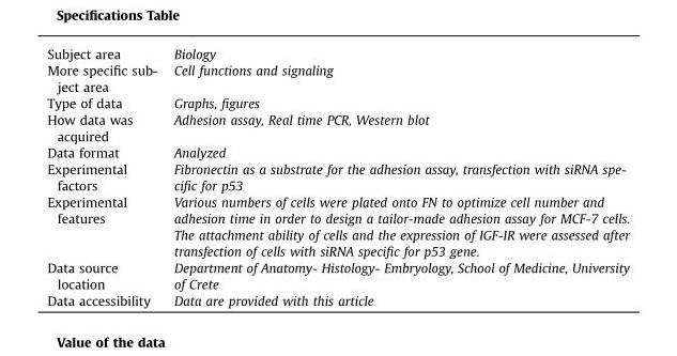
<table><tbody><tr><td>Subject area</td><td>Biology</td></tr><tr><td>More specific sub- ject area</td><td>Cell functions and signaling</td></tr><tr><td>Type of data</td><td>Graphs, figures</td></tr><tr><td>How data was acquired</td><td>Adhesion assay, Real time PCR, Western blot</td></tr><tr><td>Data format</td><td>Analyzed</td></tr><tr><td>Experimental factors</td><td>Fibronectin as a substrate for the adhesion assay, transfection with siRNA spe- cific for p53</td></tr><tr><td>Experimental features</td><td>Various numbers of cells were plated onto FN to optimize cell number and adhesion time in order to design a tailor-made adhesion assay for MCF-7 cells. The attachment ability of cells and the expression of IGF-IR were assessed after transfection of cells with siRNA specific for p53 gene.</td></tr><tr><td>Data source location</td><td>Department of Anatomy- Histology- Embryology, School of Medicine, University of Crete</td></tr><tr><td>Data accessibility</td><td>Data are provided with this article</td></tr></tbody></table>